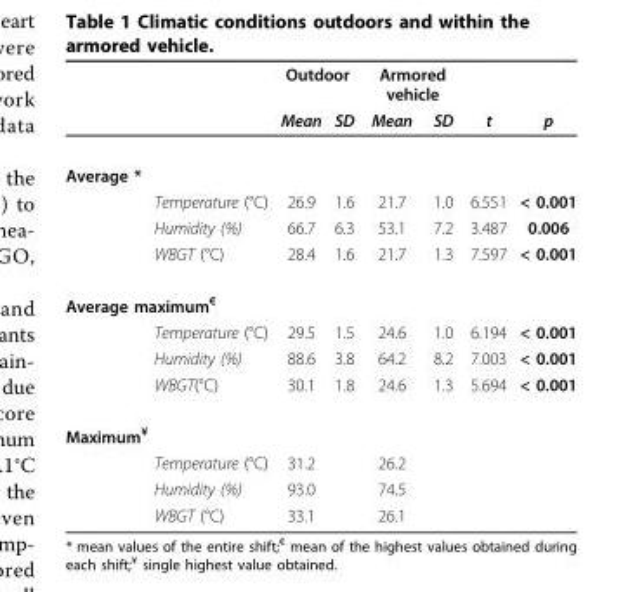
<table><thead><tr><td rowspan="2"></td><td rowspan="2"></td><td colspan="2">Outdoor</td><td colspan="2">Armored vehicle</td><td rowspan="2">t</td><td rowspan="2">p</td></tr><tr><td>Mean</td><td>SD</td><td>Mean</td><td>SD</td></tr></thead><tbody><tr><td colspan="8">Average *</td></tr><tr><td></td><td>Temperature (°C)</td><td>26.9</td><td>1.6</td><td>21.7</td><td>1.0</td><td>6.551</td><td>&lt; 0.001</td></tr><tr><td></td><td>Humidity (%)</td><td>66.7</td><td>6.3</td><td>53.1</td><td>7.2</td><td>3.487</td><td>0.006</td></tr><tr><td></td><td>WBGT (°C)</td><td>28.4</td><td>1.6</td><td>21.7</td><td>1.3</td><td>7.597</td><td>&lt; 0.001</td></tr><tr><td colspan="8">Average maximum<sup>€</sup></td></tr><tr><td></td><td>Temperature (°C)</td><td>29.5</td><td>1.5</td><td>24.6</td><td>1.0</td><td>6.194</td><td>&lt; 0.001</td></tr><tr><td></td><td>Humidity (%)</td><td>88.6</td><td>3.8</td><td>64.2</td><td>8.2</td><td>7.003</td><td>&lt; 0.001</td></tr><tr><td></td><td>WBGT(°C)</td><td>30.1</td><td>1.8</td><td>24.6</td><td>1.3</td><td>5.694</td><td>&lt; 0.001</td></tr><tr><td colspan="8">Maximum<sup>¥</sup></td></tr><tr><td></td><td>Temperature (°C)</td><td>31.2</td><td></td><td>26.2</td><td></td><td></td><td></td></tr><tr><td></td><td>Humidity (%)</td><td>93.0</td><td></td><td>74.5</td><td></td><td></td><td></td></tr><tr><td></td><td>WBGT (°C)</td><td>33.1</td><td></td><td>26.1</td><td></td><td></td><td></td></tr></tbody></table>